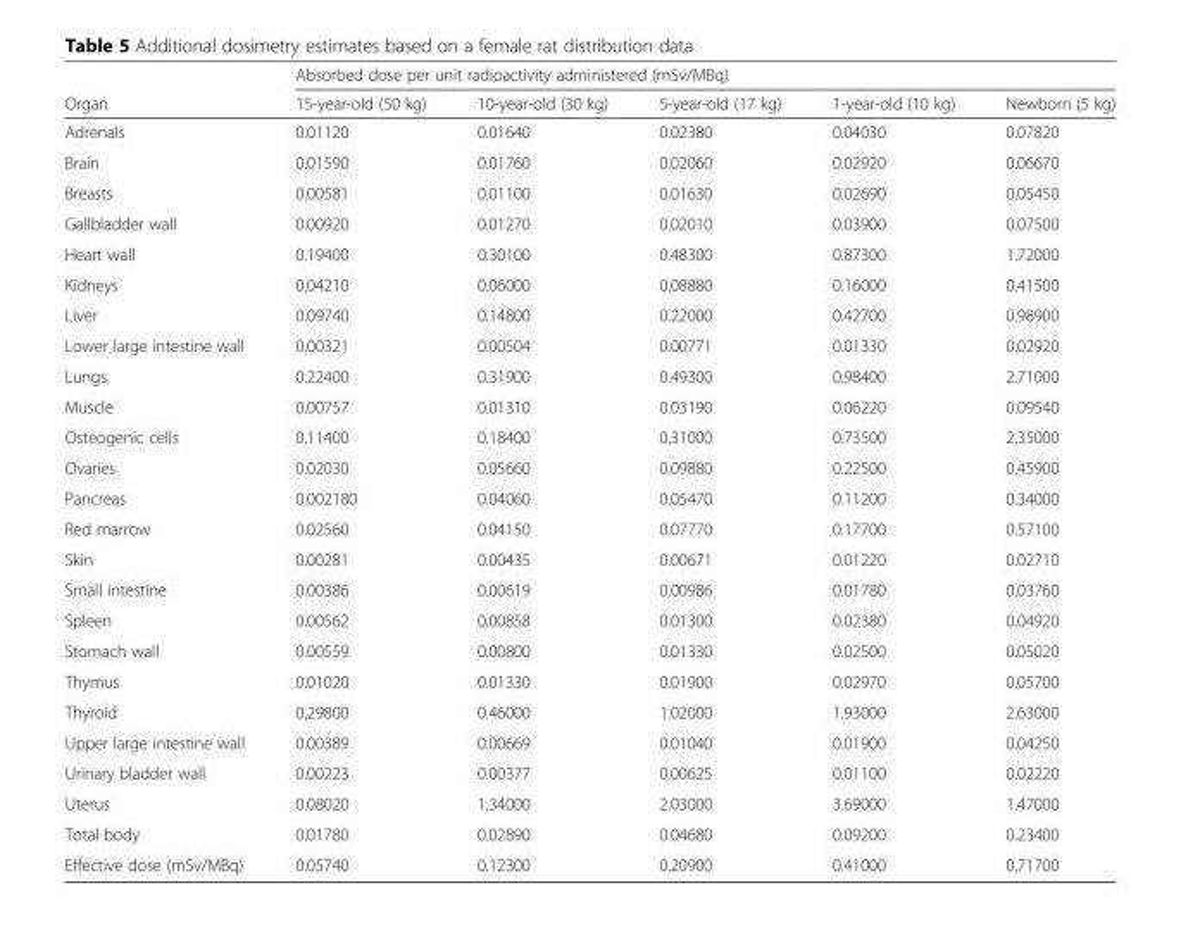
<table><thead><tr><td rowspan="2">Organ</td><td colspan="5">Absorbed dose per unit radioactivity administered (mSv/MBq)</td></tr><tr><td>15-year-old (50 kg)</td><td>10-year-old (30 kg)</td><td>5-year-old (17 kg)</td><td>1-year-old (10 kg)</td><td>Newborn (5 kg)</td></tr></thead><tbody><tr><td>Adrenals</td><td>0.01120</td><td>0.01640</td><td>0.02380</td><td>0.04030</td><td>0.07820</td></tr><tr><td>Brain</td><td>0.01590</td><td>0.01760</td><td>0.02060</td><td>0.02920</td><td>0.06670</td></tr><tr><td>Breasts</td><td>0.00581</td><td>0.01100</td><td>0.01630</td><td>0.02690</td><td>0.05450</td></tr><tr><td>Gallbladder wall</td><td>0.00920</td><td>0.01270</td><td>0.02010</td><td>0.03900</td><td>0.07500</td></tr><tr><td>Heart wall</td><td>0.19400</td><td>0.30100</td><td>0.48300</td><td>0.87300</td><td>1.72000</td></tr><tr><td>Kidneys</td><td>0.04210</td><td>0.06000</td><td>0.08880</td><td>0.16000</td><td>0.41500</td></tr><tr><td>Liver</td><td>0.09740</td><td>0.14800</td><td>0.22000</td><td>0.42700</td><td>0.98900</td></tr><tr><td>Lower large intestine wall</td><td>0.00321</td><td>0.00504</td><td>0.00771</td><td>0.01330</td><td>0.02920</td></tr><tr><td>Lungs</td><td>0.22400</td><td>0.31900</td><td>0.49300</td><td>0.98400</td><td>2.71000</td></tr><tr><td>Muscle</td><td>0.00757</td><td>0.01310</td><td>0.03190</td><td>0.06220</td><td>0.09540</td></tr><tr><td>Osteogenic cells</td><td>0.11400</td><td>0.18400</td><td>0.31000</td><td>0.73500</td><td>2.35000</td></tr><tr><td>Ovaries</td><td>0.02030</td><td>0.05660</td><td>0.09880</td><td>0.22500</td><td>0.45900</td></tr><tr><td>Pancreas</td><td>0.002180</td><td>0.04060</td><td>0.05470</td><td>0.11200</td><td>0.34000</td></tr><tr><td>Red marrow</td><td>0.02560</td><td>0.04150</td><td>0.07770</td><td>0.17700</td><td>0.57100</td></tr><tr><td>Skin</td><td>0.00281</td><td>0.00435</td><td>0.00671</td><td>0.01220</td><td>0.02710</td></tr><tr><td>Small intestine</td><td>0.00386</td><td>0.00619</td><td>0.00986</td><td>0.01780</td><td>0.03760</td></tr><tr><td>Spleen</td><td>0.00562</td><td>0.00858</td><td>0.01300</td><td>0.02380</td><td>0.04920</td></tr><tr><td>Stomach wall</td><td>0.00559</td><td>0.00800</td><td>0.01330</td><td>0.02500</td><td>0.05020</td></tr><tr><td>Thymus</td><td>0.01020</td><td>0.01330</td><td>0.01900</td><td>0.02970</td><td>0.05700</td></tr><tr><td>Thyroid</td><td>0.29800</td><td>0.46000</td><td>1.02000</td><td>1.93000</td><td>2.63000</td></tr><tr><td>Upper large intestine wall</td><td>0.00389</td><td>0.00669</td><td>0.01040</td><td>0.01900</td><td>0.04250</td></tr><tr><td>Urinary bladder wall</td><td>0.00223</td><td>0.00377</td><td>0.00625</td><td>0.01100</td><td>0.02220</td></tr><tr><td>Uterus</td><td>0.08020</td><td>1.34000</td><td>2.03000</td><td>3.69000</td><td>1.47000</td></tr><tr><td>Total body</td><td>0.01780</td><td>0.02890</td><td>0.04680</td><td>0.09200</td><td>0.23400</td></tr><tr><td>Effective dose (mSv/MBq)</td><td>0.05740</td><td>0.12300</td><td>0.20900</td><td>0.41000</td><td>0.71700</td></tr></tbody></table>